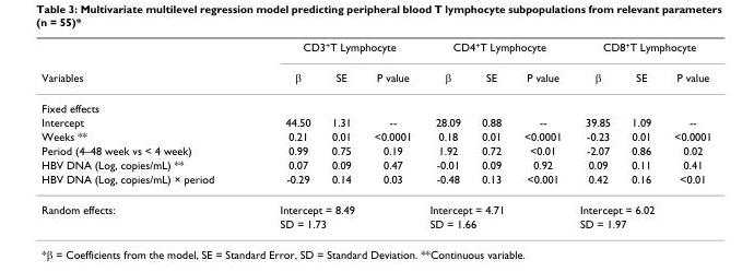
<table><thead><tr><td rowspan="2">Variables</td><td colspan="3">CD3<sup>+</sup>T Lymphocyte</td><td colspan="3">CD4<sup>+</sup>T Lymphocyte</td><td colspan="3">CD8<sup>+</sup>T Lymphocyte</td></tr><tr><td>β</td><td>SE</td><td>P value</td><td>β</td><td>SE</td><td>P value</td><td>β</td><td>SE</td><td>P value</td></tr></thead><tbody><tr><td colspan="10">Fixed effects</td></tr><tr><td>Intercept</td><td>44.50</td><td>1.31</td><td>--</td><td>28.09</td><td>0.88</td><td>--</td><td>39.85</td><td>1.09</td><td>--</td></tr><tr><td>Weeks **</td><td>0.21</td><td>0.01</td><td>&lt;0.0001</td><td>0.18</td><td>0.01</td><td>&lt;0.0001</td><td>-0.23</td><td>0.01</td><td>&lt;0.0001</td></tr><tr><td>Period (4–48 week vs &lt; 4 week)</td><td>0.99</td><td>0.75</td><td>0.19</td><td>1.92</td><td>0.72</td><td>&lt;0.01</td><td>-2.07</td><td>0.86</td><td>0.02</td></tr><tr><td>HBV DNA (Log, copies/mL) **</td><td>0.07</td><td>0.09</td><td>0.47</td><td>-0.01</td><td>0.09</td><td>0.92</td><td>0.09</td><td>0.11</td><td>0.41</td></tr><tr><td>HBV DNA (Log, copies/mL) × period</td><td>-0.29</td><td>0.14</td><td>0.03</td><td>-0.48</td><td>0.13</td><td>&lt;0.001</td><td>0.42</td><td>0.16</td><td>&lt;0.01</td></tr><tr><td rowspan="2">Random effects:</td><td colspan="3">Intercept = 8.49</td><td colspan="3">Intercept = 4.71</td><td colspan="3">Intercept = 6.02</td></tr><tr><td colspan="3">SD = 1.73</td><td colspan="3">SD = 1.66</td><td colspan="3">SD = 1.97</td></tr></tbody></table>